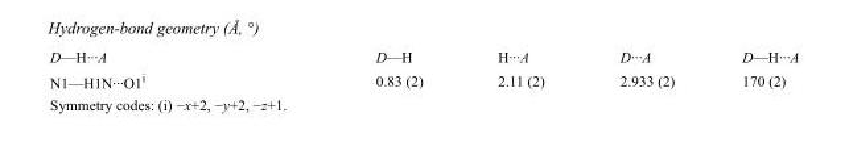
<table><tbody><tr><td>D—H···A</td><td>D—H</td><td>H···A</td><td>D···A</td><td>D—H···A</td></tr><tr><td>N1—H1N···O1<sup>i</sup></td><td>0.83 (2)</td><td>2.11 (2)</td><td>2.933 (2)</td><td>170 (2)</td></tr></tbody></table>